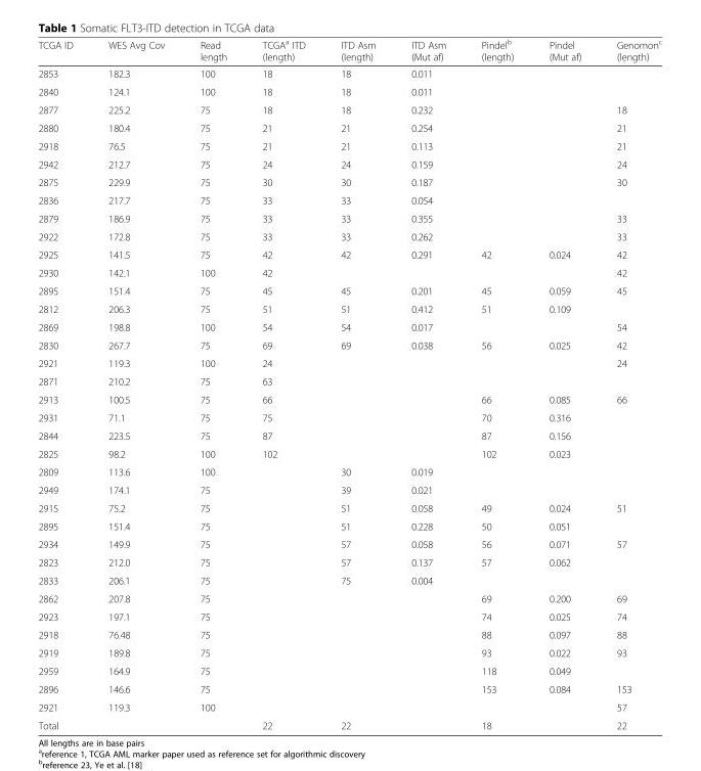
<table><thead><tr><td>TCGA ID</td><td>WES Avg Cov</td><td>Read length</td><td>TCGA<sup>a</sup> ITD (length)</td><td>ITD Asm (length)</td><td>ITD Asm (Mut af)</td><td>Pindel<sup>b</sup> (length)</td><td>Pindel (Mut af)</td><td>Genomon<sup>c</sup> (length)</td></tr></thead><tbody><tr><td>2853</td><td>182.3</td><td>100</td><td>18</td><td>18</td><td>0.011</td><td></td><td></td><td></td></tr><tr><td>2840</td><td>124.1</td><td>100</td><td>18</td><td>18</td><td>0.011</td><td></td><td></td><td></td></tr><tr><td>2877</td><td>225.2</td><td>75</td><td>18</td><td>18</td><td>0.232</td><td></td><td></td><td>18</td></tr><tr><td>2880</td><td>180.4</td><td>75</td><td>21</td><td>21</td><td>0.254</td><td></td><td></td><td>21</td></tr><tr><td>2918</td><td>76.5</td><td>75</td><td>21</td><td>21</td><td>0.113</td><td></td><td></td><td>21</td></tr><tr><td>2942</td><td>212.7</td><td>75</td><td>24</td><td>24</td><td>0.159</td><td></td><td></td><td>24</td></tr><tr><td>2875</td><td>229.9</td><td>75</td><td>30</td><td>30</td><td>0.187</td><td></td><td></td><td>30</td></tr><tr><td>2836</td><td>217.7</td><td>75</td><td>33</td><td>33</td><td>0.054</td><td></td><td></td><td></td></tr><tr><td>2879</td><td>186.9</td><td>75</td><td>33</td><td>33</td><td>0.355</td><td></td><td></td><td>33</td></tr><tr><td>2922</td><td>172.8</td><td>75</td><td>33</td><td>33</td><td>0.262</td><td></td><td></td><td>33</td></tr><tr><td>2925</td><td>141.5</td><td>75</td><td>42</td><td>42</td><td>0.291</td><td>42</td><td>0.024</td><td>42</td></tr><tr><td>2930</td><td>142.1</td><td>100</td><td>42</td><td></td><td></td><td></td><td></td><td>42</td></tr><tr><td>2895</td><td>151.4</td><td>75</td><td>45</td><td>45</td><td>0.201</td><td>45</td><td>0.059</td><td>45</td></tr><tr><td>2812</td><td>206.3</td><td>75</td><td>51</td><td>51</td><td>0.412</td><td>51</td><td>0.109</td><td></td></tr><tr><td>2869</td><td>198.8</td><td>100</td><td>54</td><td>54</td><td>0.017</td><td></td><td></td><td>54</td></tr><tr><td>2830</td><td>267.7</td><td>75</td><td>69</td><td>69</td><td>0.038</td><td>56</td><td>0.025</td><td>42</td></tr><tr><td>2921</td><td>119.3</td><td>100</td><td>24</td><td></td><td></td><td></td><td></td><td>24</td></tr><tr><td>2871</td><td>210.2</td><td>75</td><td>63</td><td></td><td></td><td></td><td></td><td></td></tr><tr><td>2913</td><td>100.5</td><td>75</td><td>66</td><td></td><td></td><td>66</td><td>0.085</td><td>66</td></tr><tr><td>2931</td><td>71.1</td><td>75</td><td>75</td><td></td><td></td><td>70</td><td>0.316</td><td></td></tr><tr><td>2844</td><td>223.5</td><td>75</td><td>87</td><td></td><td></td><td>87</td><td>0.156</td><td></td></tr><tr><td>2825</td><td>98.2</td><td>100</td><td>102</td><td></td><td></td><td>102</td><td>0.023</td><td></td></tr><tr><td>2809</td><td>113.6</td><td>100</td><td></td><td>30</td><td>0.019</td><td></td><td></td><td></td></tr><tr><td>2949</td><td>174.1</td><td>75</td><td></td><td>39</td><td>0.021</td><td></td><td></td><td></td></tr><tr><td>2915</td><td>75.2</td><td>75</td><td></td><td>51</td><td>0.058</td><td>49</td><td>0.024</td><td>51</td></tr><tr><td>2895</td><td>151.4</td><td>75</td><td></td><td>51</td><td>0.228</td><td>50</td><td>0.051</td><td></td></tr><tr><td>2934</td><td>149.9</td><td>75</td><td></td><td>57</td><td>0.058</td><td>56</td><td>0.071</td><td>57</td></tr><tr><td>2823</td><td>212.0</td><td>75</td><td></td><td>57</td><td>0.137</td><td>57</td><td>0.062</td><td></td></tr><tr><td>2833</td><td>206.1</td><td>75</td><td></td><td>75</td><td>0.004</td><td></td><td></td><td></td></tr><tr><td>2862</td><td>207.8</td><td>75</td><td></td><td></td><td></td><td>69</td><td>0.200</td><td>69</td></tr><tr><td>2923</td><td>197.1</td><td>75</td><td></td><td></td><td></td><td>74</td><td>0.025</td><td>74</td></tr><tr><td>2918</td><td>76.48</td><td>75</td><td></td><td></td><td></td><td>88</td><td>0.097</td><td>88</td></tr><tr><td>2919</td><td>189.8</td><td>75</td><td></td><td></td><td></td><td>93</td><td>0.022</td><td>93</td></tr><tr><td>2959</td><td>164.9</td><td>75</td><td></td><td></td><td></td><td>118</td><td>0.049</td><td></td></tr><tr><td>2896</td><td>146.6</td><td>75</td><td></td><td></td><td></td><td>153</td><td>0.084</td><td>153</td></tr><tr><td>2921</td><td>119.3</td><td>100</td><td></td><td></td><td></td><td></td><td></td><td>57</td></tr><tr><td>Total</td><td></td><td></td><td>22</td><td>22</td><td></td><td>18</td><td></td><td>22</td></tr></tbody></table>